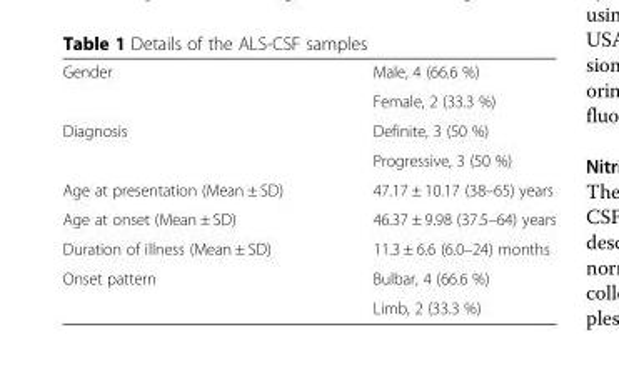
<table><tbody><tr><td rowspan="2">Gender</td><td>Male, 4 (66.6 %)</td></tr><tr><td>Female, 2 (33.3 %)</td></tr><tr><td rowspan="2">Diagnosis</td><td>Definite, 3 (50 %)</td></tr><tr><td>Progressive, 3 (50 %)</td></tr><tr><td>Age at presentation (Mean ± SD)</td><td>47.17 ± 10.17 (38–65) years</td></tr><tr><td>Age at onset (Mean ± SD)</td><td>46.37 ± 9.98 (37.5–64) years</td></tr><tr><td>Duration of illness (Mean ± SD)</td><td>11.3 ± 6.6 (6.0–24) months</td></tr><tr><td rowspan="2">Onset pattern</td><td>Bulbar, 4 (66.6 %)</td></tr><tr><td>Limb, 2 (33.3 %)</td></tr></tbody></table>